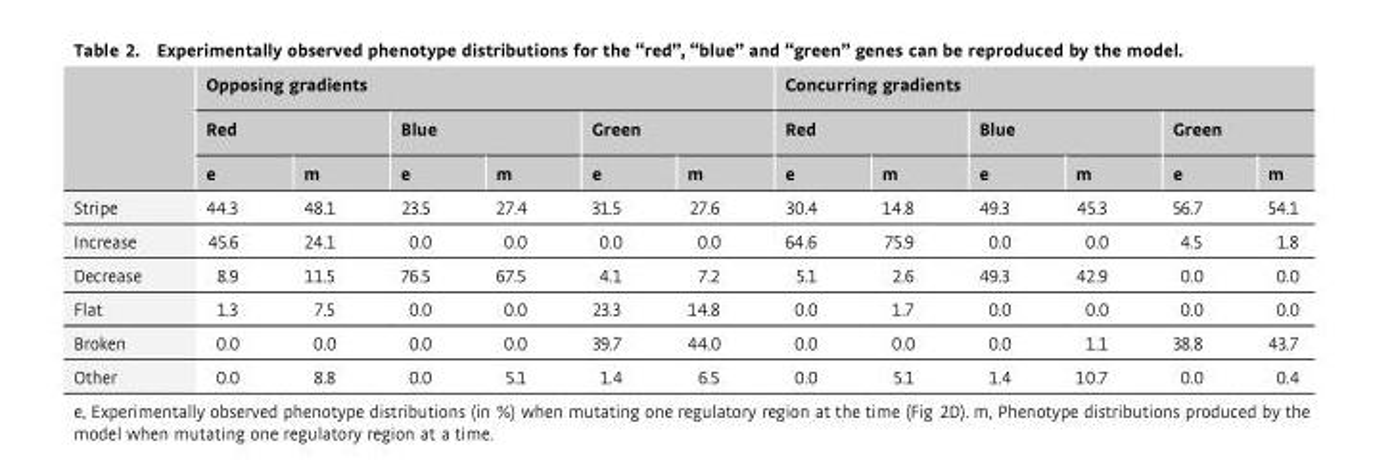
<table><thead><tr><td rowspan="3"></td><td colspan="6">Opposing gradients</td><td colspan="6">Concurring gradients</td></tr><tr><td colspan="2">Red</td><td colspan="2">Blue</td><td colspan="2">Green</td><td colspan="2">Red</td><td colspan="2">Blue</td><td colspan="2">Green</td></tr><tr><td>e</td><td>m</td><td>e</td><td>m</td><td>e</td><td>m</td><td>e</td><td>m</td><td>e</td><td>m</td><td>e</td><td>m</td></tr></thead><tbody><tr><td>Stripe</td><td>44.3</td><td>48.1</td><td>23.5</td><td>27.4</td><td>31.5</td><td>27.6</td><td>30.4</td><td>14.8</td><td>49.3</td><td>45.3</td><td>56.7</td><td>54.1</td></tr><tr><td>Increase</td><td>45.6</td><td>24.1</td><td>0.0</td><td>0.0</td><td>0.0</td><td>0.0</td><td>64.6</td><td>75.9</td><td>0.0</td><td>0.0</td><td>4.5</td><td>1.8</td></tr><tr><td>Decrease</td><td>8.9</td><td>11.5</td><td>76.5</td><td>67.5</td><td>4.1</td><td>7.2</td><td>5.1</td><td>2.6</td><td>49.3</td><td>42.9</td><td>0.0</td><td>0.0</td></tr><tr><td>Flat</td><td>1.3</td><td>7.5</td><td>0.0</td><td>0.0</td><td>23.3</td><td>14.8</td><td>0.0</td><td>1.7</td><td>0.0</td><td>0.0</td><td>0.0</td><td>0.0</td></tr><tr><td>Broken</td><td>0.0</td><td>0.0</td><td>0.0</td><td>0.0</td><td>39.7</td><td>44.0</td><td>0.0</td><td>0.0</td><td>0.0</td><td>1.1</td><td>38.8</td><td>43.7</td></tr><tr><td>Other</td><td>0.0</td><td>8.8</td><td>0.0</td><td>5.1</td><td>1.4</td><td>6.5</td><td>0.0</td><td>5.1</td><td>1.4</td><td>10.7</td><td>0.0</td><td>0.4</td></tr></tbody></table>